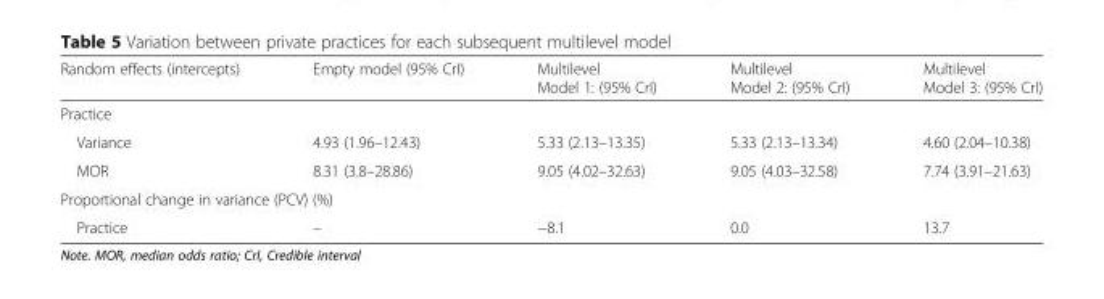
<table><thead><tr><td>Random effects (intercepts)</td><td>Empty model (95% CrI)</td><td>Multilevel Model 1: (95% CrI)</td><td>Multilevel Model 2: (95% CrI)</td><td>Multilevel Model 3: (95% CrI)</td></tr></thead><tbody><tr><td colspan="5">Practice</td></tr><tr><td>Variance</td><td>4.93 (1.96–12.43)</td><td>5.33 (2.13–13.35)</td><td>5.33 (2.13–13.34)</td><td>4.60 (2.04–10.38)</td></tr><tr><td>MOR</td><td>8.31 (3.8–28.86)</td><td>9.05 (4.02–32.63)</td><td>9.05 (4.03–32.58)</td><td>7.74 (3.91–21.63)</td></tr><tr><td colspan="5">Proportional change in variance (PCV) (%)</td></tr><tr><td>Practice</td><td>–</td><td>−8.1</td><td>0.0</td><td>13.7</td></tr></tbody></table>